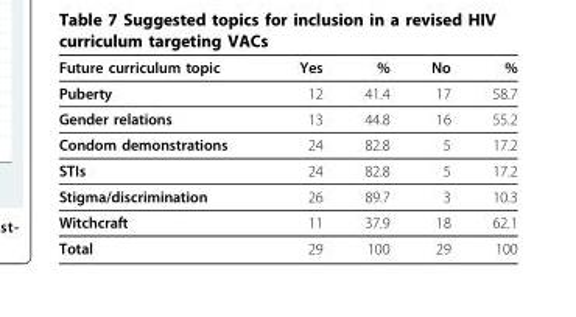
<table><thead><tr><td>Future curriculum topic</td><td>Yes</td><td>%</td><td>No</td><td>%</td></tr></thead><tbody><tr><td>Puberty</td><td>12</td><td>41.4</td><td>17</td><td>58.7</td></tr><tr><td>Gender relations</td><td>13</td><td>44.8</td><td>16</td><td>55.2</td></tr><tr><td>Condom demonstrations</td><td>24</td><td>82.8</td><td>5</td><td>17.2</td></tr><tr><td>STIs</td><td>24</td><td>82.8</td><td>5</td><td>17.2</td></tr><tr><td>Stigma/discrimination</td><td>26</td><td>89.7</td><td>3</td><td>10.3</td></tr><tr><td>Witchcraft</td><td>11</td><td>37.9</td><td>18</td><td>62.1</td></tr><tr><td>Total</td><td>29</td><td>100</td><td>29</td><td>100</td></tr></tbody></table>